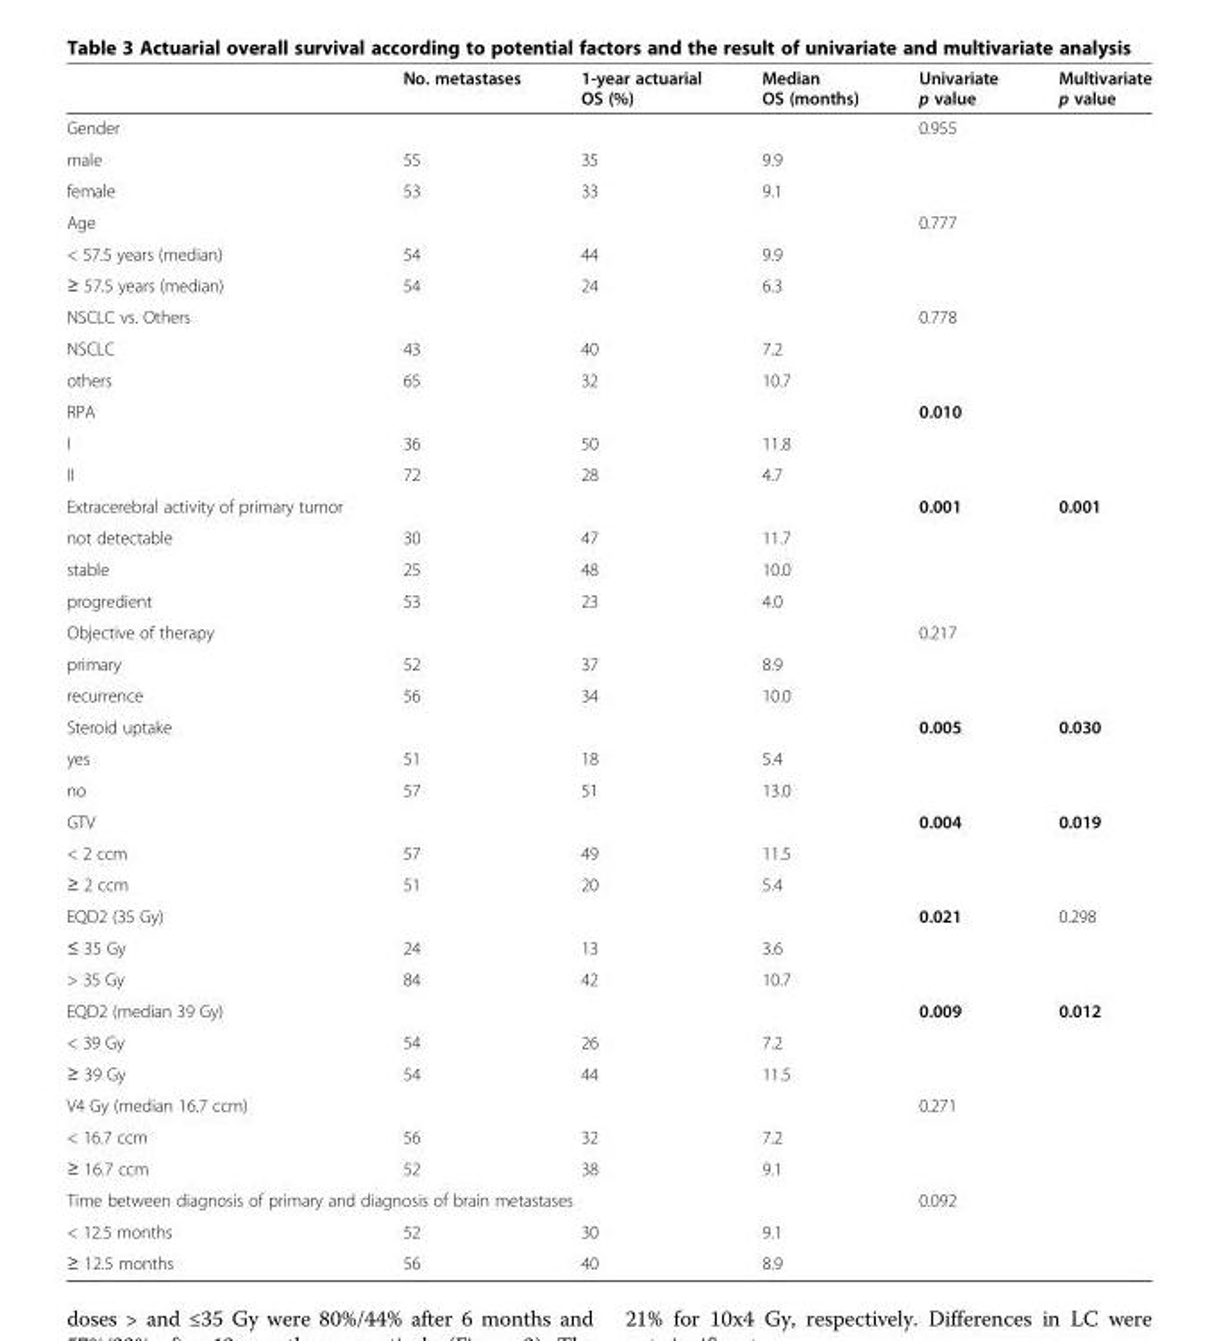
<table><thead><tr><td></td><td>No. metastases</td><td>1-year actuarial OS (%)</td><td>Median OS (months)</td><td>Univariate p value</td><td>Multivariate p value</td></tr></thead><tbody><tr><td>Gender</td><td></td><td></td><td></td><td>0.955</td><td></td></tr><tr><td>male</td><td>55</td><td>35</td><td>9.9</td><td></td><td></td></tr><tr><td>female</td><td>53</td><td>33</td><td>9.1</td><td></td><td></td></tr><tr><td>Age</td><td></td><td></td><td></td><td>0.777</td><td></td></tr><tr><td>&lt; 57.5 years (median)</td><td>54</td><td>44</td><td>9.9</td><td></td><td></td></tr><tr><td>≥ 57.5 years (median)</td><td>54</td><td>24</td><td>6.3</td><td></td><td></td></tr><tr><td>NSCLC vs. Others</td><td></td><td></td><td></td><td>0.778</td><td></td></tr><tr><td>NSCLC</td><td>43</td><td>40</td><td>7.2</td><td></td><td></td></tr><tr><td>others</td><td>65</td><td>32</td><td>10.7</td><td></td><td></td></tr><tr><td>RPA</td><td></td><td></td><td></td><td>0.010</td><td></td></tr><tr><td>I</td><td>36</td><td>50</td><td>11.8</td><td></td><td></td></tr><tr><td>II</td><td>72</td><td>28</td><td>4.7</td><td></td><td></td></tr><tr><td>Extracerebral activity of primary tumor</td><td></td><td></td><td></td><td>0.001</td><td>0.001</td></tr><tr><td>not detectable</td><td>30</td><td>47</td><td>11.7</td><td></td><td></td></tr><tr><td>stable</td><td>25</td><td>48</td><td>10.0</td><td></td><td></td></tr><tr><td>progredient</td><td>53</td><td>23</td><td>4.0</td><td></td><td></td></tr><tr><td>Objective of therapy</td><td></td><td></td><td></td><td>0.217</td><td></td></tr><tr><td>primary</td><td>52</td><td>37</td><td>8.9</td><td></td><td></td></tr><tr><td>recurrence</td><td>56</td><td>34</td><td>10.0</td><td></td><td></td></tr><tr><td>Steroid uptake</td><td></td><td></td><td></td><td>0.005</td><td>0.030</td></tr><tr><td>yes</td><td>51</td><td>18</td><td>5.4</td><td></td><td></td></tr><tr><td>no</td><td>57</td><td>51</td><td>13.0</td><td></td><td></td></tr><tr><td>GTV</td><td></td><td></td><td></td><td>0.004</td><td>0.019</td></tr><tr><td>&lt; 2 ccm</td><td>57</td><td>49</td><td>11.5</td><td></td><td></td></tr><tr><td>≥ 2 ccm</td><td>51</td><td>20</td><td>5.4</td><td></td><td></td></tr><tr><td>EQD2 (35 Gy)</td><td></td><td></td><td></td><td>0.021</td><td>0.298</td></tr><tr><td>≤ 35 Gy</td><td>24</td><td>13</td><td>3.6</td><td></td><td></td></tr><tr><td>&gt; 35 Gy</td><td>84</td><td>42</td><td>10.7</td><td></td><td></td></tr><tr><td>EQD2 (median 39 Gy)</td><td></td><td></td><td></td><td>0.009</td><td>0.012</td></tr><tr><td>&lt; 39 Gy</td><td>54</td><td>26</td><td>7.2</td><td></td><td></td></tr><tr><td>≥ 39 Gy</td><td>54</td><td>44</td><td>11.5</td><td></td><td></td></tr><tr><td>V4 Gy (median 16.7 ccm)</td><td></td><td></td><td></td><td>0.271</td><td></td></tr><tr><td>&lt; 16.7 ccm</td><td>56</td><td>32</td><td>7.2</td><td></td><td></td></tr><tr><td>≥ 16.7 ccm</td><td>52</td><td>38</td><td>9.1</td><td></td><td></td></tr><tr><td colspan="4">Time between diagnosis of primary and diagnosis of brain metastases</td><td>0.092</td><td></td></tr><tr><td>&lt; 12.5 months</td><td>52</td><td>30</td><td>9.1</td><td></td><td></td></tr><tr><td>≥ 12.5 months</td><td>56</td><td>40</td><td>8.9</td><td></td><td></td></tr></tbody></table>